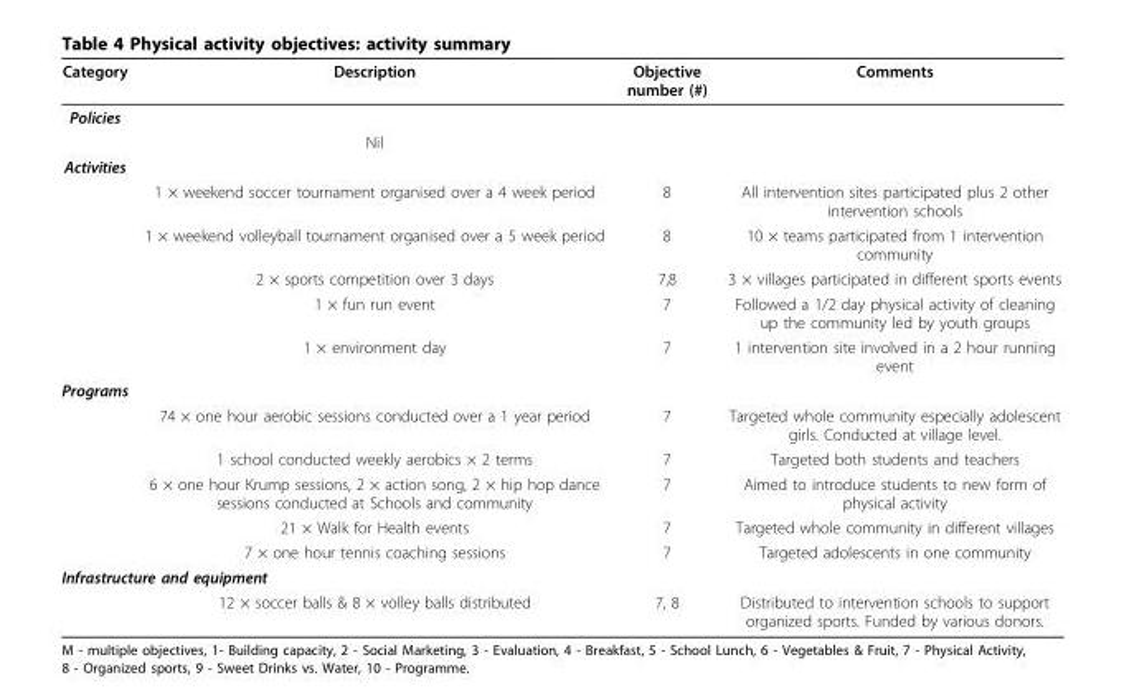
<table><thead><tr><td>Category</td><td>Description</td><td>Objective number (#)</td><td>Comments</td></tr></thead><tbody><tr><td colspan="4">Policies</td></tr><tr><td></td><td>Nil</td><td></td><td></td></tr><tr><td colspan="4">Activities</td></tr><tr><td></td><td>1 × weekend soccer tournament organised over a 4 week period</td><td>8</td><td>All intervention sites participated plus 2 other intervention schools</td></tr><tr><td></td><td>1 × weekend volleyball tournament organised over a 5 week period</td><td>8</td><td>10 × teams participated from 1 intervention community</td></tr><tr><td></td><td>2 × sports competition over 3 days</td><td>7,8</td><td>3 × villages participated in different sports events</td></tr><tr><td></td><td>1 × fun run event</td><td>7</td><td>Followed a 1/2 day physical activity of cleaning up the community led by youth groups</td></tr><tr><td></td><td>1 × environment day</td><td>7</td><td>1 intervention site involved in a 2 hour running event</td></tr><tr><td colspan="4">Programs</td></tr><tr><td></td><td>74 × one hour aerobic sessions conducted over a 1 year period</td><td>7</td><td>Targeted whole community especially adolescent girls. Conducted at village level.</td></tr><tr><td></td><td>1 school conducted weekly aerobics × 2 terms</td><td>7</td><td>Targeted both students and teachers</td></tr><tr><td></td><td>6 × one hour Krump sessions, 2 × action song, 2 × hip hop dance sessions conducted at Schools and community</td><td>7</td><td>Aimed to introduce students to new form of physical activity</td></tr><tr><td></td><td>21 × Walk for Health events</td><td>7</td><td>Targeted whole community in different villages</td></tr><tr><td></td><td>7 × one hour tennis coaching sessions</td><td>7</td><td>Targeted adolescents in one community</td></tr><tr><td colspan="4">Infrastructure and equipment</td></tr><tr><td></td><td>12 × soccer balls &amp; 8 × volley balls distributed</td><td>7, 8</td><td>Distributed to intervention schools to support organized sports. Funded by various donors.</td></tr></tbody></table>